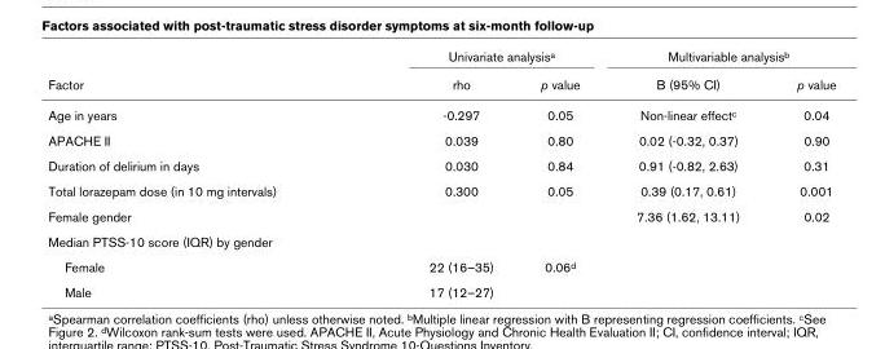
<table><thead><tr><td rowspan="2">Factor</td><td colspan="2">Univariate analysis<sup>a</sup></td><td colspan="2">Multivariable analysis<sup>b</sup></td></tr><tr><td>rho</td><td>p value</td><td>B (95% CI)</td><td>p value</td></tr></thead><tbody><tr><td>Age in years</td><td>-0.297</td><td>0.05</td><td>Non-linear effect<sup>c</sup></td><td>0.04</td></tr><tr><td>APACHE II</td><td>0.039</td><td>0.80</td><td>0.02 (-0.32, 0.37)</td><td>0.90</td></tr><tr><td>Duration of delirium in days</td><td>0.030</td><td>0.84</td><td>0.91 (-0.82, 2.63)</td><td>0.31</td></tr><tr><td>Total lorazepam dose (in 10 mg intervals)</td><td>0.300</td><td>0.05</td><td>0.39 (0.17, 0.61)</td><td>0.001</td></tr><tr><td>Female gender</td><td></td><td></td><td>7.36 (1.62, 13.11)</td><td>0.02</td></tr><tr><td colspan="5">Median PTSS-10 score (IQR) by gender</td></tr><tr><td>Female</td><td>22 (16–35)</td><td>0.06<sup>d</sup></td><td></td><td></td></tr><tr><td>Male</td><td>17 (12–27)</td><td></td><td></td><td></td></tr></tbody></table>